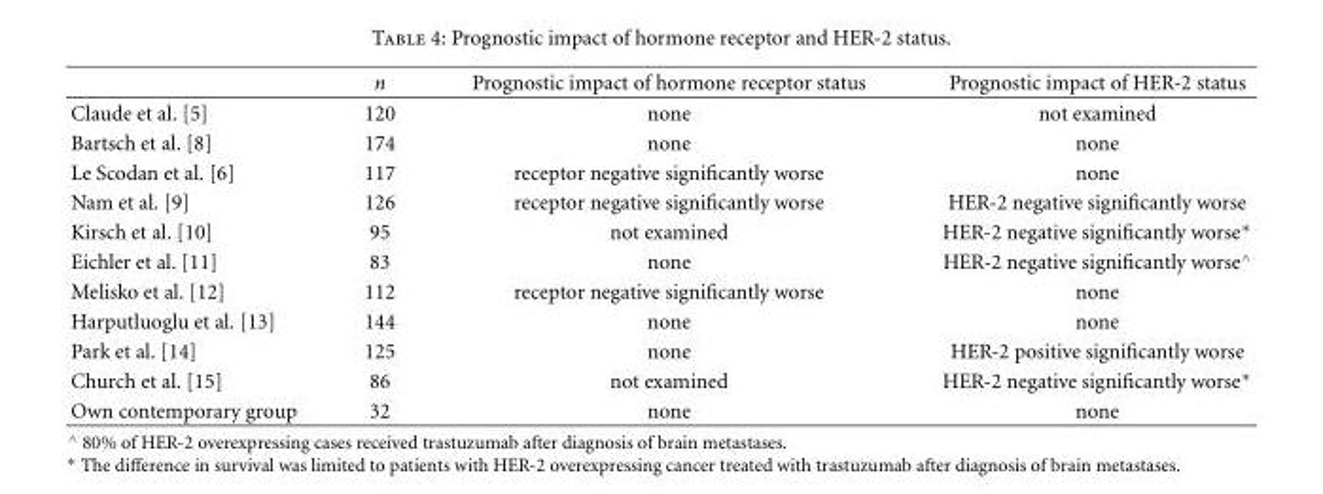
<table><thead><tr><td></td><td>n</td><td>Prognostic impact of hormone receptor status</td><td>Prognostic impact of HER-2 status</td></tr></thead><tbody><tr><td>Claude et al. [5]</td><td>120</td><td>none</td><td>not examined</td></tr><tr><td>Bartsch et al. [8]</td><td>174</td><td>none</td><td>none</td></tr><tr><td>Le Scodan et al. [6]</td><td>117</td><td>receptor negative significantly worse</td><td>none</td></tr><tr><td>Nam et al. [9]</td><td>126</td><td>receptor negative significantly worse</td><td>HER-2 negative significantly worse</td></tr><tr><td>Kirsch et al. [10]</td><td>95</td><td>not examined</td><td>HER-2 negative significantly worse∗</td></tr><tr><td>Eichler et al. [11]</td><td>83</td><td>none</td><td>HER-2 negative significantly worse∧</td></tr><tr><td>Melisko et al. [12]</td><td>112</td><td>receptor negative significantly worse</td><td>none</td></tr><tr><td>Harputluoglu et al. [13]</td><td>144</td><td>none</td><td>none</td></tr><tr><td>Park et al. [14]</td><td>125</td><td>none</td><td>HER-2 positive significantly worse</td></tr><tr><td>Church et al. [15]</td><td>86</td><td>not examined</td><td>HER-2 negative significantly worse∗</td></tr><tr><td>Own contemporary group</td><td>32</td><td>none</td><td>none</td></tr></tbody></table>